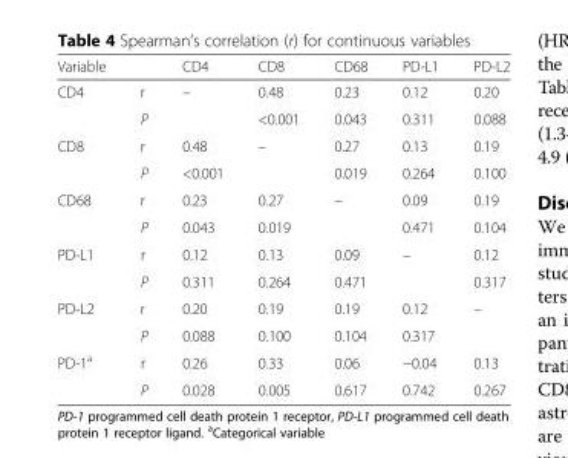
<table><thead><tr><td>Variable</td><td></td><td>CD4</td><td>CD8</td><td>CD68</td><td>PD-L1</td><td>PD-L2</td></tr></thead><tbody><tr><td rowspan="2">CD4</td><td>r</td><td rowspan="2">–</td><td>0.48</td><td>0.23</td><td>0.12</td><td>0.20</td></tr><tr><td>P</td><td>&lt;0.001</td><td>0.043</td><td>0.311</td><td>0.088</td></tr><tr><td rowspan="2">CD8</td><td>r</td><td>0.48</td><td rowspan="2">–</td><td>0.27</td><td>0.13</td><td>0.19</td></tr><tr><td>P</td><td>&lt;0.001</td><td>0.019</td><td>0.264</td><td>0.100</td></tr><tr><td rowspan="2">CD68</td><td>r</td><td>0.23</td><td>0.27</td><td rowspan="2">–</td><td>0.09</td><td>0.19</td></tr><tr><td>P</td><td>0.043</td><td>0.019</td><td>0.471</td><td>0.104</td></tr><tr><td rowspan="2">PD-L1</td><td>r</td><td>0.12</td><td>0.13</td><td>0.09</td><td rowspan="2">–</td><td>0.12</td></tr><tr><td>P</td><td>0.311</td><td>0.264</td><td>0.471</td><td>0.317</td></tr><tr><td rowspan="2">PD-L2</td><td>r</td><td>0.20</td><td>0.19</td><td>0.19</td><td>0.12</td><td rowspan="2">–</td></tr><tr><td>P</td><td>0.088</td><td>0.100</td><td>0.104</td><td>0.317</td></tr><tr><td rowspan="2">PD-1<sup>a</sup></td><td>r</td><td>0.26</td><td>0.33</td><td>0.06</td><td>−0.04</td><td>0.13</td></tr><tr><td>P</td><td>0.028</td><td>0.005</td><td>0.617</td><td>0.742</td><td>0.267</td></tr></tbody></table>